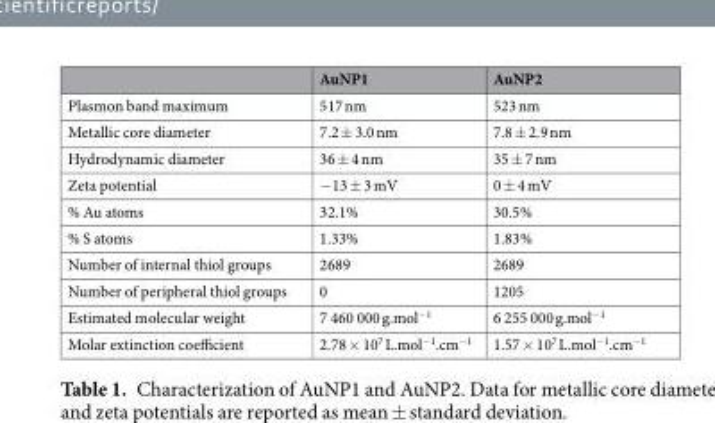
<table><thead><tr><td></td><td>AuNP1</td><td>AuNP2</td></tr></thead><tbody><tr><td>Plasmon band maximum</td><td>517 nm</td><td>523 nm</td></tr><tr><td>Metallic core diameter</td><td>7.2 ± 3.0 nm</td><td>7.8 ± 2.9 nm</td></tr><tr><td>Hydrodynamic diameter</td><td>36 ± 4 nm</td><td>35 ± 7 nm</td></tr><tr><td>Zeta potential</td><td>−13 ± 3 mV</td><td>0 ± 4 mV</td></tr><tr><td>% Au atoms</td><td>32.1%</td><td>30.5%</td></tr><tr><td>% S atoms</td><td>1.33%</td><td>1.83%</td></tr><tr><td>Number of internal thiol groups</td><td>2689</td><td>2689</td></tr><tr><td>Number of peripheral thiol groups</td><td>0</td><td>1205</td></tr><tr><td>Estimated molecular weight</td><td>7 460 000 g.mol<sup>−1</sup></td><td>6 255 000 g.mol<sup>−1</sup></td></tr><tr><td>Molar extinction coefficient</td><td>2.78 × 10<sup>7</sup> L.mol<sup>−1</sup>.cm<sup>−1</sup></td><td>1.57 × 10<sup>7</sup> L.mol<sup>−1</sup>.cm<sup>−1</sup></td></tr></tbody></table>